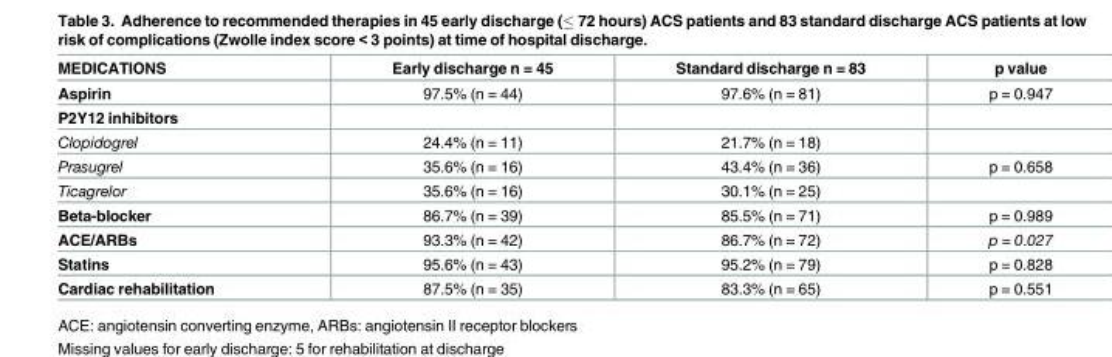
<table><thead><tr><td>MEDICATIONS</td><td>Early discharge n = 45</td><td>Standard discharge n = 83</td><td>p value</td></tr></thead><tbody><tr><td>Aspirin</td><td>97.5% (n = 44)</td><td>97.6% (n = 81)</td><td>p = 0.947</td></tr><tr><td colspan="4">P2Y12 inhibitors</td></tr><tr><td>Clopidogrel</td><td>24.4% (n = 11)</td><td>21.7% (n = 18)</td><td></td></tr><tr><td>Prasugrel</td><td>35.6% (n = 16)</td><td>43.4% (n = 36)</td><td>p = 0.658</td></tr><tr><td>Ticagrelor</td><td>35.6% (n = 16)</td><td>30.1% (n = 25)</td><td></td></tr><tr><td>Beta-blocker</td><td>86.7% (n = 39)</td><td>85.5% (n = 71)</td><td>p = 0.989</td></tr><tr><td>ACE/ARBs</td><td>93.3% (n = 42)</td><td>86.7% (n = 72)</td><td>p = 0.027</td></tr><tr><td>Statins</td><td>95.6% (n = 43)</td><td>95.2% (n = 79)</td><td>p = 0.828</td></tr><tr><td>Cardiac rehabilitation</td><td>87.5% (n = 35)</td><td>83.3% (n = 65)</td><td>p = 0.551</td></tr></tbody></table>